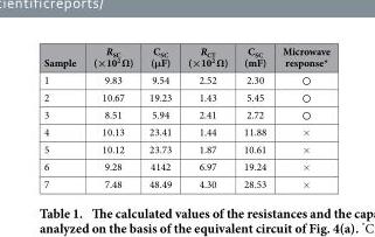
<table><thead><tr><td>Sample</td><td>R<sub>SC</sub> (×10<sup>2</sup> Ω)</td><td>C<sub>SC</sub> (μF)</td><td>R<sub>CT</sub> (×10<sup>2</sup> Ω)</td><td>C<sub>SC</sub> (mF)</td><td>Microwave response*</td></tr></thead><tbody><tr><td>1</td><td>9.83</td><td>9.54</td><td>2.52</td><td>2.30</td><td>○</td></tr><tr><td>2</td><td>10.67</td><td>19.23</td><td>1.43</td><td>5.45</td><td>○</td></tr><tr><td>3</td><td>8.51</td><td>5.94</td><td>2.41</td><td>2.72</td><td>○</td></tr><tr><td>4</td><td>10.13</td><td>23.41</td><td>1.44</td><td>11.88</td><td>×</td></tr><tr><td>5</td><td>10.12</td><td>23.73</td><td>1.87</td><td>10.61</td><td>×</td></tr><tr><td>6</td><td>9.28</td><td>4142</td><td>6.97</td><td>19.24</td><td>×</td></tr><tr><td>7</td><td>7.48</td><td>48.49</td><td>4.30</td><td>28.53</td><td>×</td></tr></tbody></table>